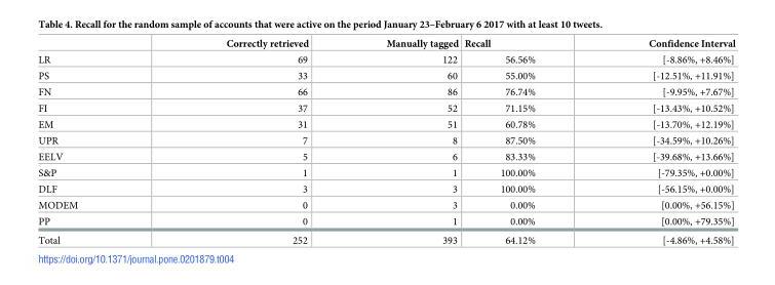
<table><thead><tr><td></td><td>Correctly retrieved</td><td>Manually tagged</td><td>Recall</td><td>Confidence Interval</td></tr></thead><tbody><tr><td>LR</td><td>69</td><td>122</td><td>56.56%</td><td>[-8.86%, +8.46%]</td></tr><tr><td>PS</td><td>33</td><td>60</td><td>55.00%</td><td>[-12.51%, +11.91%]</td></tr><tr><td>FN</td><td>66</td><td>86</td><td>76.74%</td><td>[-9.95%, +7.67%]</td></tr><tr><td>FI</td><td>37</td><td>52</td><td>71.15%</td><td>[-13.43%, +10.52%]</td></tr><tr><td>EM</td><td>31</td><td>51</td><td>60.78%</td><td>[-13.70%, +12.19%]</td></tr><tr><td>UPR</td><td>7</td><td>8</td><td>87.50%</td><td>[-34.59%, +10.26%]</td></tr><tr><td>EELV</td><td>5</td><td>6</td><td>83.33%</td><td>[-39.68%, +13.66%]</td></tr><tr><td>S&amp;P</td><td>1</td><td>1</td><td>100.00%</td><td>[-79.35%, +0.00%]</td></tr><tr><td>DLF</td><td>3</td><td>3</td><td>100.00%</td><td>[-56.15%, +0.00%]</td></tr><tr><td>MODEM</td><td>0</td><td>3</td><td>0.00%</td><td>[0.00%, +56.15%]</td></tr><tr><td>PP</td><td>0</td><td>1</td><td>0.00%</td><td>[0.00%, +79.35%]</td></tr><tr><td>Total</td><td>252</td><td>393</td><td>64.12%</td><td>[-4.86%, +4.58%]</td></tr></tbody></table>